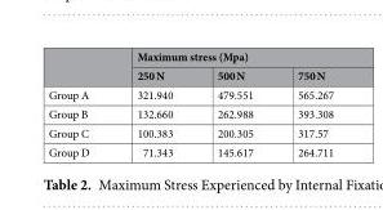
<table><thead><tr><td rowspan="2"></td><td colspan="3">Maximum stress (Mpa)</td></tr><tr><td>250 N</td><td>500 N</td><td>750 N</td></tr></thead><tbody><tr><td>Group A</td><td>321.940</td><td>479.551</td><td>565.267</td></tr><tr><td>Group B</td><td>132.660</td><td>262.988</td><td>393.308</td></tr><tr><td>Group C</td><td>100.383</td><td>200.305</td><td>317.57</td></tr><tr><td>Group D</td><td>71.343</td><td>145.617</td><td>264.711</td></tr></tbody></table>